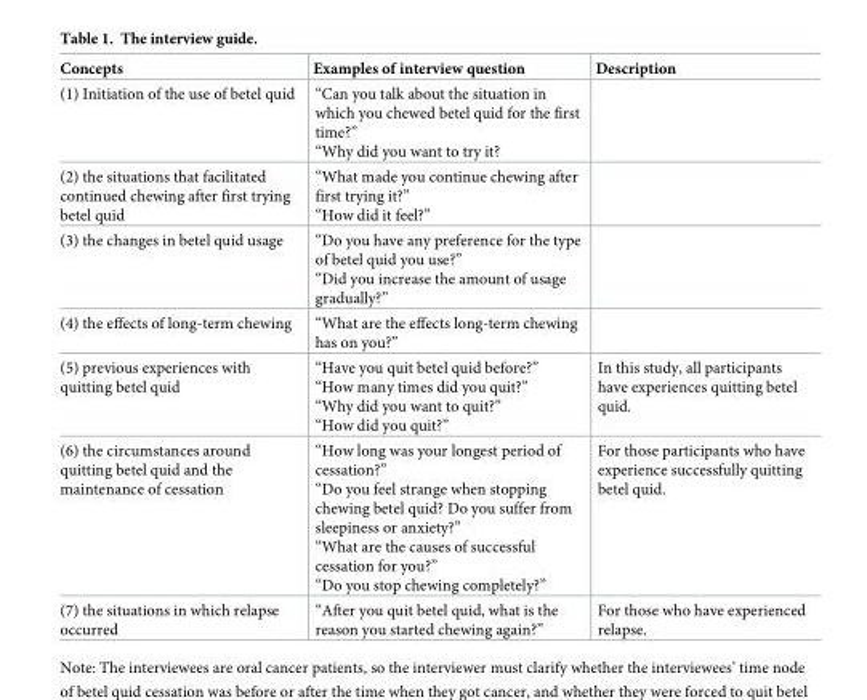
<table><thead><tr><td>Concepts</td><td>Examples of interview question</td><td>Description</td></tr></thead><tbody><tr><td>(1) Initiation of the use of betel quid</td><td>“Can you talk about the situation in which you chewed betel quid for the first time?” “Why did you want to try it?</td><td></td></tr><tr><td>(2) the situations that facilitated continued chewing after first trying betel quid</td><td>“What made you continue chewing after first trying it?” “How did it feel?”</td><td></td></tr><tr><td>(3) the changes in betel quid usage</td><td>“Do you have any preference for the type of betel quid you use?” “Did you increase the amount of usage gradually?”</td><td></td></tr><tr><td>(4) the effects of long-term chewing</td><td>“What are the effects long-term chewing has on you?”</td><td></td></tr><tr><td>(5) previous experiences with quitting betel quid</td><td>“Have you quit betel quid before?” “How many times did you quit?” “Why did you want to quit?” “How did you quit?”</td><td>In this study, all participants have experiences quitting betel quid.</td></tr><tr><td>(6) the circumstances around quitting betel quid and the maintenance of cessation</td><td>“How long was your longest period of cessation?” “Do you feel strange when stopping chewing betel quid? Do you suffer from sleepiness or anxiety?” “What are the causes of successful cessation for you?” “Do you stop chewing completely?”</td><td>For those participants who have experience successfully quitting betel quid.</td></tr><tr><td>(7) the situations in which relapse occurred</td><td>“After you quit betel quid, what is the reason you started chewing again?”</td><td>For those who have experienced relapse.</td></tr></tbody></table>